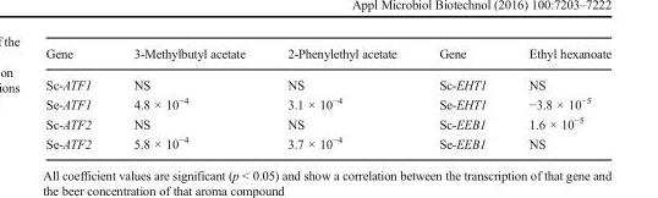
<table><thead><tr><td>Gene</td><td>3-Methylbutyl acetate</td><td>2-Phenylethyl acetate</td><td>Gene</td><td>Ethyl hexanoate</td></tr></thead><tbody><tr><td>Sc-ATF1</td><td>NS</td><td>NS</td><td>Sc-EHT1</td><td>NS</td></tr><tr><td>Se-ATF1</td><td>4.8 × 10<sup>−4</sup></td><td>3.1 × 10<sup>−4</sup></td><td>Se-EHT1</td><td>−3.8 × 10<sup>−5</sup></td></tr><tr><td>Sc-ATF2</td><td>NS</td><td>NS</td><td>Sc-EEB1</td><td>1.6 × 10<sup>−5</sup></td></tr><tr><td>Se-ATF2</td><td>5.8 × 10<sup>−4</sup></td><td>3.7 × 10<sup>−4</sup></td><td>Se-EEB1</td><td>NS</td></tr></tbody></table>